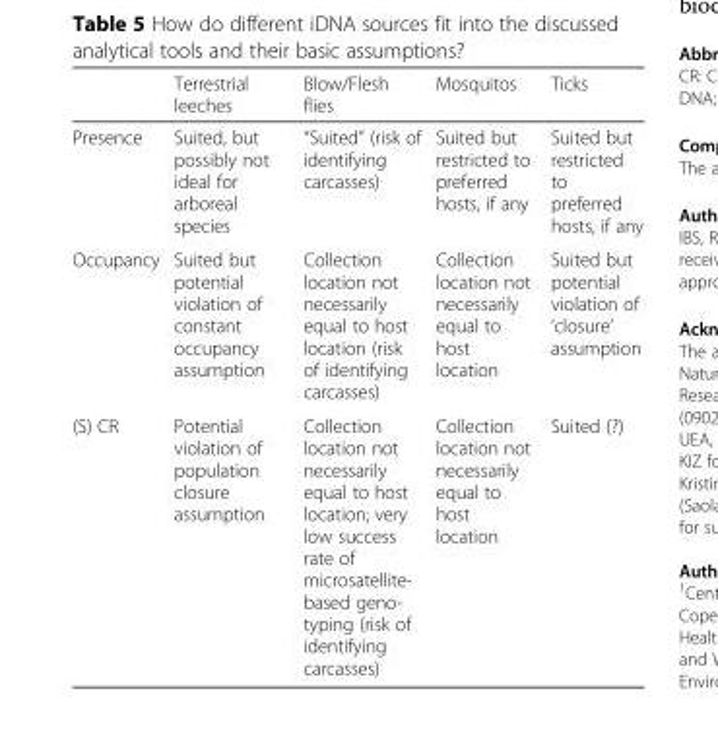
<table><thead><tr><td></td><td>Terrestrial leeches</td><td>Blow/Flesh flies</td><td>Mosquitos</td><td>Ticks</td></tr></thead><tbody><tr><td>Presence</td><td>Suited, but possibly not ideal for arboreal species</td><td>“Suited” (risk of identifying carcasses)</td><td>Suited but restricted to preferred hosts, if any</td><td>Suited but restricted to preferred hosts, if any</td></tr><tr><td>Occupancy</td><td>Suited but potential violation of constant occupancy assumption</td><td>Collection location not necessarily equal to host location (risk of identifying carcasses)</td><td>Collection location not necessarily equal to host location</td><td>Suited but potential violation of ‘closure’ assumption</td></tr><tr><td>(S) CR</td><td>Potential violation of population closure assumption</td><td>Collection location not necessarily equal to host location; very low success rate of microsatellite- based geno- typing (risk of identifying carcasses)</td><td>Collection location not necessarily equal to host location</td><td>Suited (?)</td></tr></tbody></table>